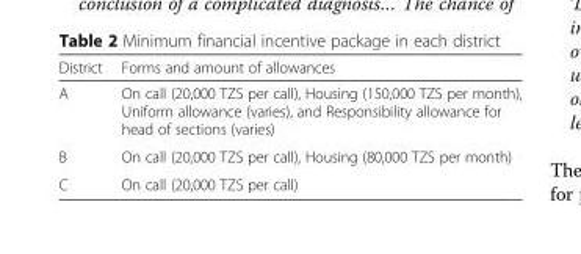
<table><thead><tr><td>District</td><td>Forms and amount of allowances</td></tr></thead><tbody><tr><td>A</td><td>On call (20,000 TZS per call), Housing (150,000 TZS per month), Uniform allowance (varies), and Responsibility allowance for head of sections (varies)</td></tr><tr><td>B</td><td>On call (20,000 TZS per call), Housing (80,000 TZS per month)</td></tr><tr><td>C</td><td>On call (20,000 TZS per call)</td></tr></tbody></table>